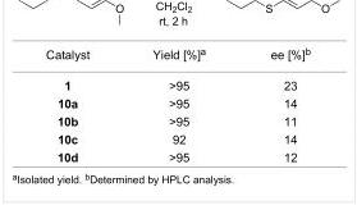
<table><tbody><tr><td>Catalyst</td><td>Yield [%]<sup>a</sup></td><td>ee [%]<sup>b</sup></td></tr><tr><td>1</td><td>&gt;95</td><td>23</td></tr><tr><td>10a</td><td>&gt;95</td><td>14</td></tr><tr><td>10b</td><td>&gt;95</td><td>11</td></tr><tr><td>10c</td><td>92</td><td>14</td></tr><tr><td>10d</td><td>&gt;95</td><td>12</td></tr></tbody></table>